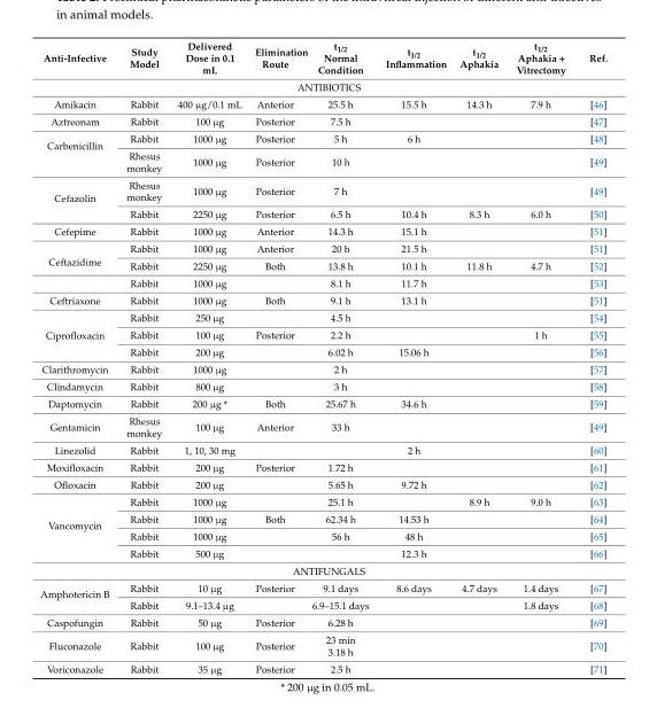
<table><thead><tr><td>Anti-Infective</td><td>Study Model</td><td>Delivered Dose in 0.1 mL</td><td>Elimination Route</td><td>t<sub>1/2</sub> Normal Condition</td><td>t<sub>1/2</sub> Inflammation</td><td>t<sub>1/2</sub> Aphakia</td><td>t<sub>1/2</sub> Aphakia + Vitrectomy</td><td>Ref.</td></tr></thead><tbody><tr><td colspan="9">ANTIBIOTICS</td></tr><tr><td>Amikacin</td><td>Rabbit</td><td>400 µg/0.1 mL</td><td>Anterior</td><td>25.5 h</td><td>15.5 h</td><td>14.3 h</td><td>7.9 h</td><td>[46]</td></tr><tr><td>Aztreonam</td><td>Rabbit</td><td>100 µg</td><td>Posterior</td><td>7.5 h</td><td></td><td></td><td></td><td>[47]</td></tr><tr><td rowspan="2">Carbenicillin</td><td>Rabbit</td><td>1000 µg</td><td>Posterior</td><td>5 h</td><td>6 h</td><td></td><td></td><td>[48]</td></tr><tr><td>Rhesus monkey</td><td>1000 µg</td><td>Posterior</td><td>10 h</td><td></td><td></td><td></td><td>[49]</td></tr><tr><td rowspan="2">Cefazolin</td><td>Rhesus monkey</td><td>1000 µg</td><td>Posterior</td><td>7 h</td><td></td><td></td><td></td><td>[49]</td></tr><tr><td>Rabbit</td><td>2250 µg</td><td>Posterior</td><td>6.5 h</td><td>10.4 h</td><td>8.3 h</td><td>6.0 h</td><td>[50]</td></tr><tr><td>Cefepime</td><td>Rabbit</td><td>1000 µg</td><td>Anterior</td><td>14.3 h</td><td>15.1 h</td><td></td><td></td><td>[51]</td></tr><tr><td rowspan="3">Ceftazidime</td><td>Rabbit</td><td>1000 µg</td><td>Anterior</td><td>20 h</td><td>21.5 h</td><td></td><td></td><td>[51]</td></tr><tr><td>Rabbit</td><td>2250 µg</td><td>Both</td><td>13.8 h</td><td>10.1 h</td><td>11.8 h</td><td>4.7 h</td><td>[52]</td></tr><tr><td>Rabbit</td><td>1000 µg</td><td></td><td>8.1 h</td><td>11.7 h</td><td></td><td></td><td>[53]</td></tr><tr><td>Ceftriaxone</td><td>Rabbit</td><td>1000 µg</td><td>Both</td><td>9.1 h</td><td>13.1 h</td><td></td><td></td><td>[51]</td></tr><tr><td rowspan="3">Ciprofloxacin</td><td>Rabbit</td><td>250 µg</td><td></td><td>4.5 h</td><td></td><td></td><td></td><td>[54]</td></tr><tr><td>Rabbit</td><td>100 µg</td><td>Posterior</td><td>2.2 h</td><td></td><td></td><td>1 h</td><td>[55]</td></tr><tr><td>Rabbit</td><td>200 µg</td><td></td><td>6.02 h</td><td>15.06 h</td><td></td><td></td><td>[56]</td></tr><tr><td>Clarithromycin</td><td>Rabbit</td><td>1000 µg</td><td></td><td>2 h</td><td></td><td></td><td></td><td>[57]</td></tr><tr><td>Clindamycin</td><td>Rabbit</td><td>800 µg</td><td></td><td>3 h</td><td></td><td></td><td></td><td>[58]</td></tr><tr><td>Daptomycin</td><td>Rabbit</td><td>200 µg *</td><td>Both</td><td>25.67 h</td><td>34.6 h</td><td></td><td></td><td>[59]</td></tr><tr><td>Gentamicin</td><td>Rhesus monkey</td><td>100 µg</td><td>Anterior</td><td>33 h</td><td></td><td></td><td></td><td>[49]</td></tr><tr><td>Linezolid</td><td>Rabbit</td><td>1, 10, 30 mg</td><td></td><td></td><td>2 h</td><td></td><td></td><td>[60]</td></tr><tr><td>Moxifloxacin</td><td>Rabbit</td><td>200 µg</td><td>Posterior</td><td>1.72 h</td><td></td><td></td><td></td><td>[61]</td></tr><tr><td>Ofloxacin</td><td>Rabbit</td><td>200 µg</td><td></td><td>5.65 h</td><td>9.72 h</td><td></td><td></td><td>[62]</td></tr><tr><td rowspan="4">Vancomycin</td><td>Rabbit</td><td>1000 µg</td><td></td><td>25.1 h</td><td></td><td>8.9 h</td><td>9.0 h</td><td>[63]</td></tr><tr><td>Rabbit</td><td>1000 µg</td><td>Both</td><td>62.34 h</td><td>14.53 h</td><td></td><td></td><td>[64]</td></tr><tr><td>Rabbit</td><td>1000 µg</td><td></td><td>56 h</td><td>48 h</td><td></td><td></td><td>[65]</td></tr><tr><td>Rabbit</td><td>500 µg</td><td></td><td></td><td>12.3 h</td><td></td><td></td><td>[66]</td></tr><tr><td colspan="9">ANTIFUNGALS</td></tr><tr><td rowspan="2">Amphotericin B</td><td>Rabbit</td><td>10 µg</td><td>Posterior</td><td>9.1 days</td><td>8.6 days</td><td>4.7 days</td><td>1.4 days</td><td>[67]</td></tr><tr><td>Rabbit</td><td>9.1–13.4 µg</td><td></td><td>6.9–15.1 days</td><td></td><td></td><td>1.8 days</td><td>[68]</td></tr><tr><td>Caspofungin</td><td>Rabbit</td><td>50 µg</td><td>Posterior</td><td>6.28 h</td><td></td><td></td><td></td><td>[69]</td></tr><tr><td>Fluconazole</td><td>Rabbit</td><td>100 µg</td><td>Posterior</td><td>23 min 3.18 h</td><td></td><td></td><td></td><td>[70]</td></tr><tr><td>Voriconazole</td><td>Rabbit</td><td>35 µg</td><td>Posterior</td><td>2.5 h</td><td></td><td></td><td></td><td>[71]</td></tr></tbody></table>